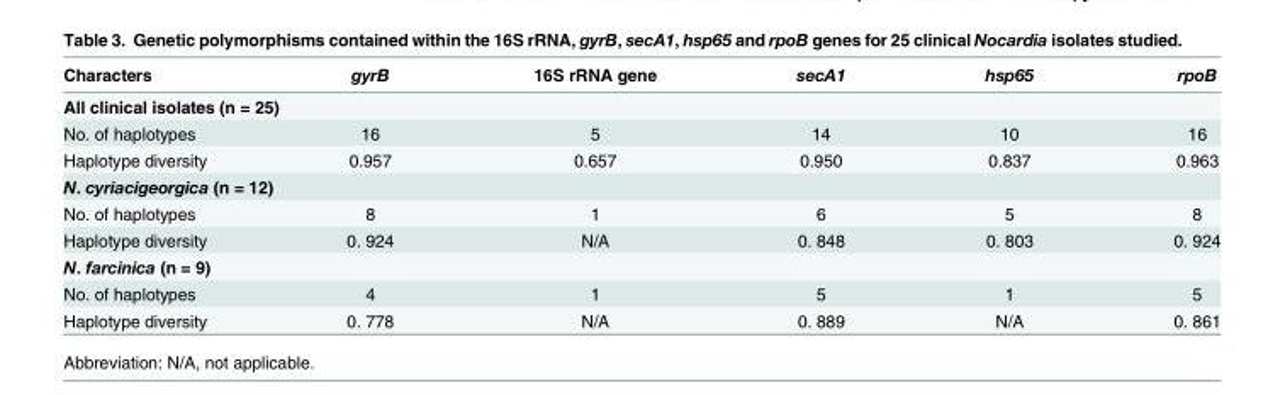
<table><thead><tr><td>Characters</td><td>gyrB</td><td>16S rRNA gene</td><td>secA1</td><td>hsp65</td><td>rpoB</td></tr></thead><tbody><tr><td colspan="6">All clinical isolates (n = 25)</td></tr><tr><td>No. of haplotypes</td><td>16</td><td>5</td><td>14</td><td>10</td><td>16</td></tr><tr><td>Haplotype diversity</td><td>0.957</td><td>0.657</td><td>0.950</td><td>0.837</td><td>0.963</td></tr><tr><td colspan="6">N. cyriacigeorgica (n = 12)</td></tr><tr><td>No. of haplotypes</td><td>8</td><td>1</td><td>6</td><td>5</td><td>8</td></tr><tr><td>Haplotype diversity</td><td>0. 924</td><td>N/A</td><td>0. 848</td><td>0. 803</td><td>0. 924</td></tr><tr><td colspan="6">N. farcinica (n = 9)</td></tr><tr><td>No. of haplotypes</td><td>4</td><td>1</td><td>5</td><td>1</td><td>5</td></tr><tr><td>Haplotype diversity</td><td>0. 778</td><td>N/A</td><td>0. 889</td><td>N/A</td><td>0. 861</td></tr></tbody></table>